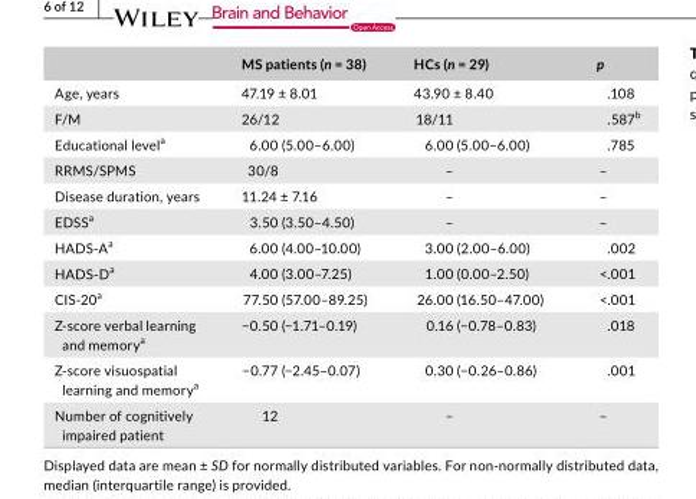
<table><thead><tr><td></td><td>MS patients (n = 38)</td><td>HCs (n = 29)</td><td>p</td></tr></thead><tbody><tr><td>Age, years</td><td>47.19 ± 8.01</td><td>43.90 ± 8.40</td><td>.108</td></tr><tr><td>F/M</td><td>26/12</td><td>18/11</td><td>.587<sup>b</sup></td></tr><tr><td>Educational level<sup>a</sup></td><td>6.00 (5.00–6.00)</td><td>6.00 (5.00–6.00)</td><td>.785</td></tr><tr><td>RRMS/SPMS</td><td>30/8</td><td>–</td><td>–</td></tr><tr><td>Disease duration, years</td><td>11.24 ± 7.16</td><td>–</td><td>–</td></tr><tr><td>EDSS<sup>a</sup></td><td>3.50 (3.50–4.50)</td><td>–</td><td>–</td></tr><tr><td>HADS- A<sup>a</sup></td><td>6.00 (4.00–10.00)</td><td>3.00 (2.00–6.00)</td><td>.002</td></tr><tr><td>HADS- D<sup>a</sup></td><td>4.00 (3.00–7.25)</td><td>1.00 (0.00–2.50)</td><td>&lt;.001</td></tr><tr><td>CIS- 20<sup>a</sup></td><td>77.50 (57.00–89.25)</td><td>26.00 (16.50–47.00)</td><td>&lt;.001</td></tr><tr><td>Z- score verbal learning and memory<sup>a</sup></td><td>−0.50 (−1.71–0.19)</td><td>0.16 (−0.78–0.83)</td><td>.018</td></tr><tr><td>Z- score visuospatial learning and memory<sup>a</sup></td><td>−0.77 (−2.45–0.07)</td><td>0.30 (−0.26–0.86)</td><td>.001</td></tr><tr><td>Number of cognitively impaired patient</td><td>12</td><td>–</td><td>–</td></tr></tbody></table>